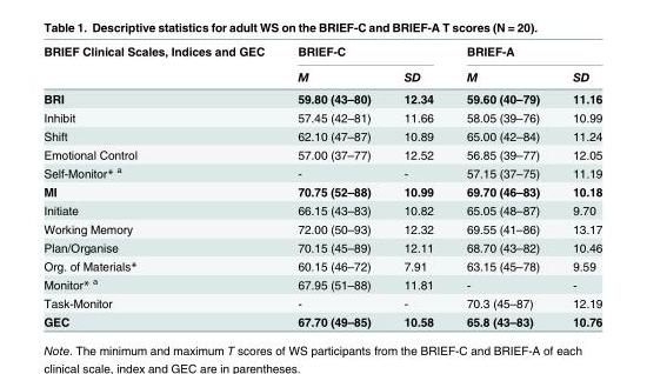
<table><thead><tr><td rowspan="2">BRIEF Clinical Scales, Indices and GEC</td><td colspan="2">BRIEF-C</td><td colspan="2">BRIEF-A</td></tr><tr><td>M</td><td>SD</td><td>M</td><td>SD</td></tr></thead><tbody><tr><td>BRI</td><td>59.80 (43–80)</td><td>12.34</td><td>59.60 (40–79)</td><td>11.16</td></tr><tr><td>Inhibit</td><td>57.45 (42–81)</td><td>11.66</td><td>58.05 (39–76)</td><td>10.99</td></tr><tr><td>Shift</td><td>62.10 (47–87)</td><td>10.89</td><td>65.00 (42–84)</td><td>11.24</td></tr><tr><td>Emotional Control</td><td>57.00 (37–77)</td><td>12.52</td><td>56.85 (39–77)</td><td>12.05</td></tr><tr><td>Self-Monitor* <sup>a</sup></td><td>-</td><td>-</td><td>57.15 (37–75)</td><td>11.19</td></tr><tr><td>MI</td><td>70.75 (52–88)</td><td>10.99</td><td>69.70 (46–83)</td><td>10.18</td></tr><tr><td>Initiate</td><td>66.15 (43–83)</td><td>10.82</td><td>65.05 (48–87)</td><td>9.70</td></tr><tr><td>Working Memory</td><td>72.00 (50–93)</td><td>12.32</td><td>69.55 (41–86)</td><td>13.17</td></tr><tr><td>Plan/Organise</td><td>70.15 (45–89)</td><td>12.11</td><td>68.70 (43–82)</td><td>10.46</td></tr><tr><td>Org. of Materials*</td><td>60.15 (46–72)</td><td>7.91</td><td>63.15 (45–78)</td><td>9.59</td></tr><tr><td>Monitor* <sup>a</sup></td><td>67.95 (51–88)</td><td>11.81</td><td>-</td><td>-</td></tr><tr><td>Task-Monitor</td><td>-</td><td>-</td><td>70.3 (45–87)</td><td>12.19</td></tr><tr><td>GEC</td><td>67.70 (49–85)</td><td>10.58</td><td>65.8 (43–83)</td><td>10.76</td></tr></tbody></table>